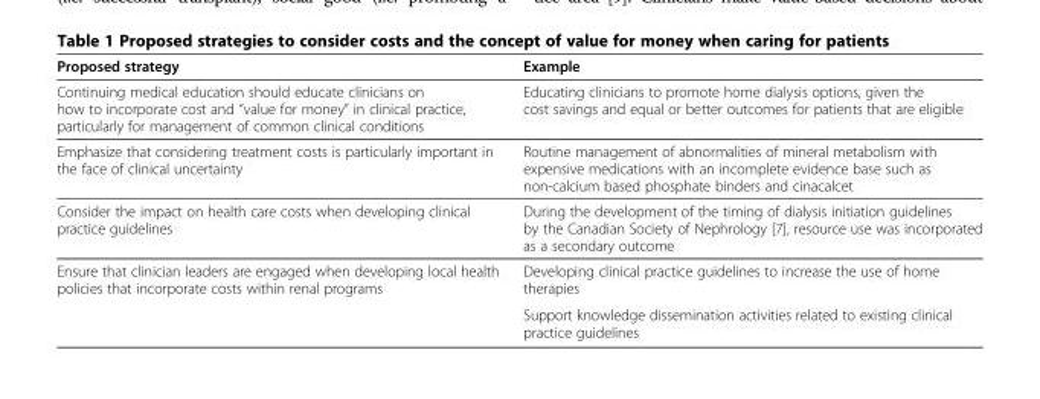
<table><thead><tr><td>Proposed strategy</td><td>Example</td></tr></thead><tbody><tr><td>Continuing medical education should educate clinicians on how to incorporate cost and “value for money” in clinical practice, particularly for management of common clinical conditions</td><td>Educating clinicians to promote home dialysis options, given the cost savings and equal or better outcomes for patients that are eligible</td></tr><tr><td>Emphasize that considering treatment costs is particularly important in the face of clinical uncertainty</td><td>Routine management of abnormalities of mineral metabolism with expensive medications with an incomplete evidence base such as non-calcium based phosphate binders and cinacalcet</td></tr><tr><td>Consider the impact on health care costs when developing clinical practice guidelines</td><td>During the development of the timing of dialysis initiation guidelines by the Canadian Society of Nephrology [7], resource use was incorporated as a secondary outcome</td></tr><tr><td rowspan="2">Ensure that clinician leaders are engaged when developing local health policies that incorporate costs within renal programs</td><td>Developing clinical practice guidelines to increase the use of home therapies</td></tr><tr><td>Support knowledge dissemination activities related to existing clinical practice guidelines</td></tr></tbody></table>